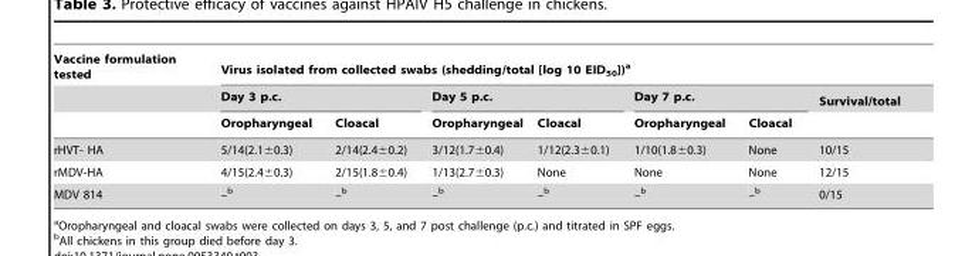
<table><thead><tr><td rowspan="3">Vaccine formulation tested</td><td colspan="7">Virus isolated from collected swabs (shedding/total [log 10 EID<sub>50</sub>])<sup>a</sup></td></tr><tr><td colspan="2">Day 3 p.c.</td><td colspan="2">Day 5 p.c.</td><td colspan="2">Day 7 p.c.</td><td rowspan="2">Survival/total</td></tr><tr><td>Oropharyngeal</td><td>Cloacal</td><td>Oropharyngeal</td><td>Cloacal</td><td>Oropharyngeal</td><td>Cloacal</td></tr></thead><tbody><tr><td>rHVT- HA</td><td>5/14(2.1±0.3)</td><td>2/14(2.4±0.2)</td><td>3/12(1.7±0.4)</td><td>1/12(2.3±0.1)</td><td>1/10(1.8±0.3)</td><td>None</td><td>10/15</td></tr><tr><td>rMDV-HA</td><td>4/15(2.4±0.3)</td><td>2/15(1.8±0.4)</td><td>1/13(2.7±0.3)</td><td>None</td><td>None</td><td>None</td><td>12/15</td></tr><tr><td>MDV 814</td><td>–b</td><td>–b</td><td>–b</td><td>–b</td><td>–b</td><td>–b</td><td>0/15</td></tr></tbody></table>